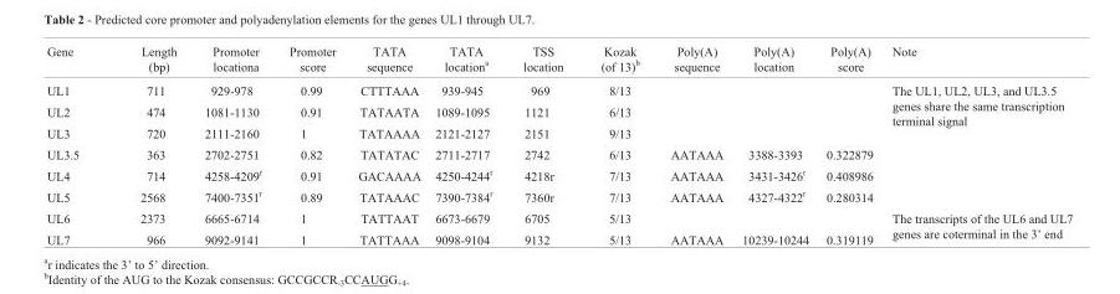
<table><thead><tr><td>Gene</td><td>Length (bp)</td><td>Promoter locationa</td><td>Promoter score</td><td>TATA sequence</td><td>TATA location<sup>a</sup></td><td>TSS location</td><td>Kozak (of 13)<sup>b</sup></td><td>Poly(A) sequence</td><td>Poly(A) location</td><td>Poly(A) score</td><td>Note</td></tr></thead><tbody><tr><td>UL1</td><td>711</td><td>929-978</td><td>0.99</td><td>CTTTAAA</td><td>939-945</td><td>969</td><td>8/13</td><td></td><td></td><td></td><td rowspan="3">The UL1, UL2, UL3, and UL3.5 genes share the same transcription terminal signal</td></tr><tr><td>UL2</td><td>474</td><td>1081-1130</td><td>0.91</td><td>TATAATA</td><td>1089-1095</td><td>1121</td><td>6/13</td><td></td><td></td><td></td></tr><tr><td>UL3</td><td>720</td><td>2111-2160</td><td>1</td><td>TATAAAA</td><td>2121-2127</td><td>2151</td><td>9/13</td><td></td><td></td><td></td></tr><tr><td>UL3.5</td><td>363</td><td>2702-2751</td><td>0.82</td><td>TATATAC</td><td>2711-2717</td><td>2742</td><td>6/13</td><td>AATAAA</td><td>3388-3393</td><td>0.322879</td><td></td></tr><tr><td>UL4</td><td>714</td><td>4258-4209<sup>r</sup></td><td>0.91</td><td>GACAAAA</td><td>4250-4244<sup>r</sup></td><td>4218r</td><td>7/13</td><td>AATAAA</td><td>3431-3426<sup>r</sup></td><td>0.408986</td><td></td></tr><tr><td>UL5</td><td>2568</td><td>7400-7351<sup>r</sup></td><td>0.89</td><td>TATAAAC</td><td>7390-7384<sup>r</sup></td><td>7360r</td><td>7/13</td><td>AATAAA</td><td>4327-4322<sup>r</sup></td><td>0.280314</td><td></td></tr><tr><td>UL6</td><td>2373</td><td>6665-6714</td><td>1</td><td>TATTAAT</td><td>6673-6679</td><td>6705</td><td>5/13</td><td></td><td></td><td></td><td rowspan="2">The transcripts of the UL6 and UL7 genes are coterminal in the 3’ end</td></tr><tr><td>UL7</td><td>966</td><td>9092-9141</td><td>1</td><td>TATTAAA</td><td>9098-9104</td><td>9132</td><td>5/13</td><td>AATAAA</td><td>10239-10244</td><td>0.319119</td></tr></tbody></table>